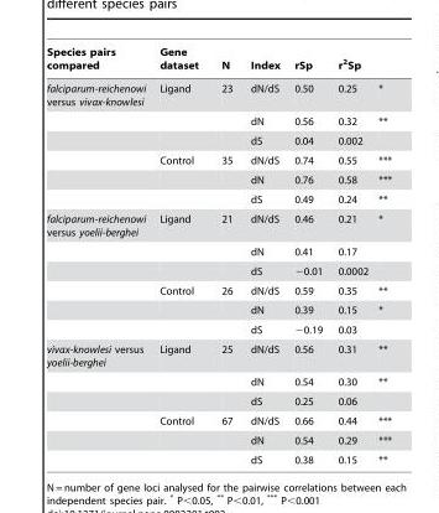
<table><thead><tr><td>Species pairs compared</td><td>Gene dataset</td><td>N</td><td>Index</td><td>rSp</td><td>r<sup>2</sup>Sp</td><td></td></tr></thead><tbody><tr><td rowspan="6">falciparum-reichenowi versus vivax-knowlesi</td><td>Ligand</td><td>23</td><td>dN/dS</td><td>0.50</td><td>0.25</td><td>*</td></tr><tr><td></td><td></td><td>dN</td><td>0.56</td><td>0.32</td><td>**</td></tr><tr><td></td><td></td><td>dS</td><td>0.04</td><td>0.002</td><td></td></tr><tr><td>Control</td><td>35</td><td>dN/dS</td><td>0.74</td><td>0.55</td><td>***</td></tr><tr><td></td><td></td><td>dN</td><td>0.76</td><td>0.58</td><td>***</td></tr><tr><td></td><td></td><td>dS</td><td>0.49</td><td>0.24</td><td>**</td></tr><tr><td rowspan="6">falciparum-reichenowi versus yoelii-berghei</td><td>Ligand</td><td>21</td><td>dN/dS</td><td>0.46</td><td>0.21</td><td>*</td></tr><tr><td></td><td></td><td>dN</td><td>0.41</td><td>0.17</td><td></td></tr><tr><td></td><td></td><td>dS</td><td>−0.01</td><td>0.0002</td><td></td></tr><tr><td>Control</td><td>26</td><td>dN/dS</td><td>0.59</td><td>0.35</td><td>**</td></tr><tr><td></td><td></td><td>dN</td><td>0.39</td><td>0.15</td><td>*</td></tr><tr><td></td><td></td><td>dS</td><td>−0.19</td><td>0.03</td><td></td></tr><tr><td rowspan="6">vivax-knowlesi versus yoelii-berghei</td><td>Ligand</td><td>25</td><td>dN/dS</td><td>0.56</td><td>0.31</td><td>**</td></tr><tr><td></td><td></td><td>dN</td><td>0.54</td><td>0.30</td><td>**</td></tr><tr><td></td><td></td><td>dS</td><td>0.25</td><td>0.06</td><td></td></tr><tr><td>Control</td><td>67</td><td>dN/dS</td><td>0.66</td><td>0.44</td><td>***</td></tr><tr><td></td><td></td><td>dN</td><td>0.54</td><td>0.29</td><td>***</td></tr><tr><td></td><td></td><td>dS</td><td>0.38</td><td>0.15</td><td>**</td></tr></tbody></table>